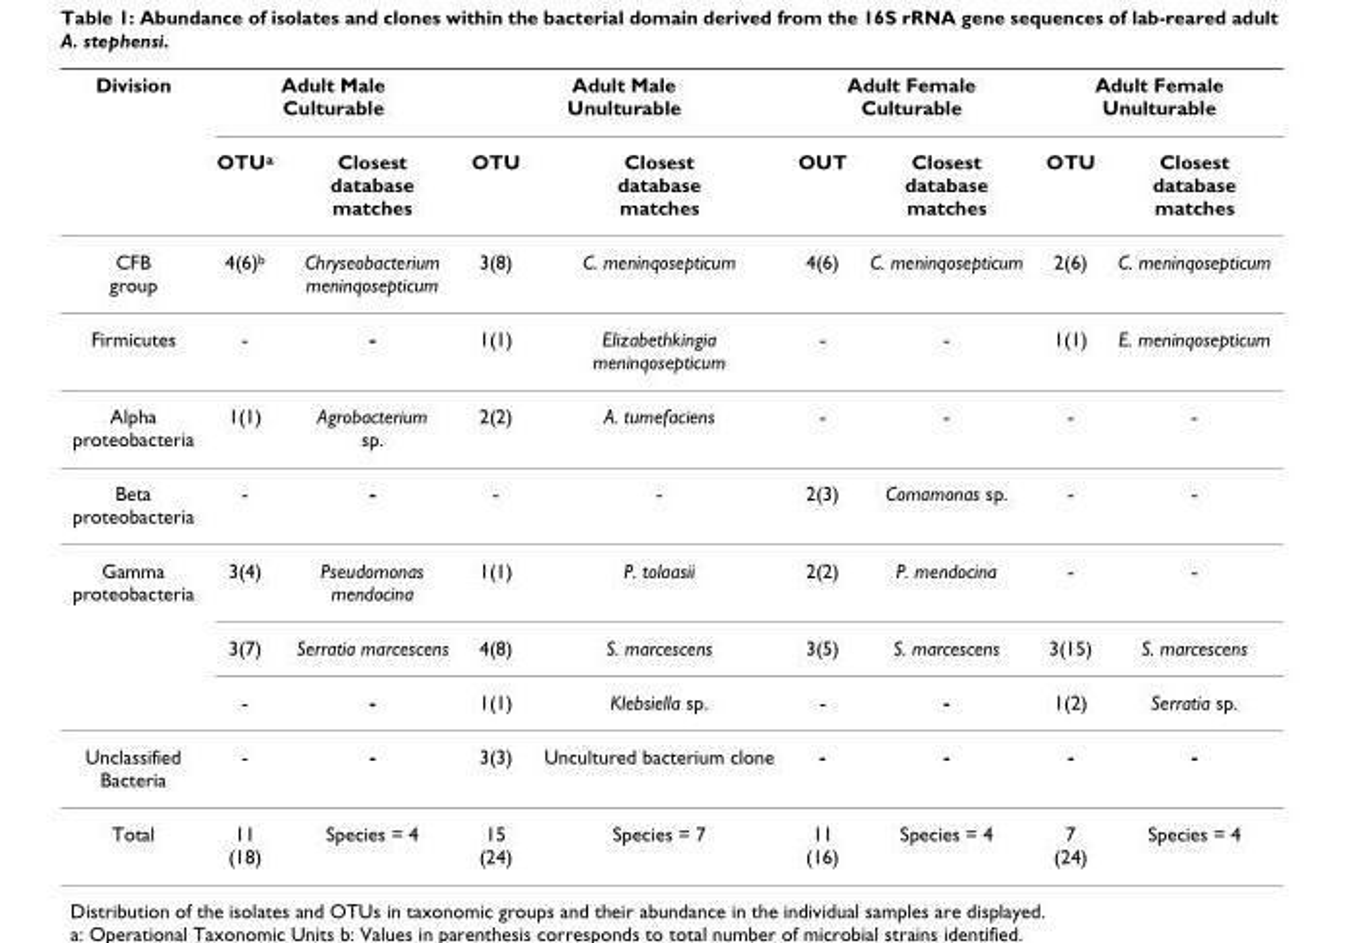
<table><thead><tr><td rowspan="2">Division</td><td colspan="2">Adult Male Culturable</td><td colspan="2">Adult Male Unulturable</td><td colspan="2">Adult Female Culturable</td><td colspan="2">Adult Female Unulturable</td></tr><tr><td>OTUa</td><td>Closest database matches</td><td>OTU</td><td>Closest database matches</td><td>OUT</td><td>Closest database matches</td><td>OTU</td><td>Closest database matches</td></tr></thead><tbody><tr><td>CFB group</td><td>4(6)b</td><td>Chryseobacterium meninqosepticum</td><td>3(8)</td><td>C. meninqosepticum</td><td>4(6)</td><td>C. meninqosepticum</td><td>2(6)</td><td>C. meninqosepticum</td></tr><tr><td>Firmicutes</td><td>-</td><td>-</td><td>1(1)</td><td>Elizabethkingia meninqosepticum</td><td>-</td><td>-</td><td>1(1)</td><td>E. meninqosepticum</td></tr><tr><td>Alpha proteobacteria</td><td>1(1)</td><td>Agrobacterium sp.</td><td>2(2)</td><td>A. tumefaciens</td><td>-</td><td>-</td><td>-</td><td>-</td></tr><tr><td>Beta proteobacteria</td><td>-</td><td>-</td><td>-</td><td>-</td><td>2(3)</td><td>Comamonas sp.</td><td>-</td><td>-</td></tr><tr><td rowspan="3">Gamma proteobacteria</td><td>3(4)</td><td>Pseudomonas mendocina</td><td>1(1)</td><td>P. tolaasii</td><td>2(2)</td><td>P. mendocina</td><td>-</td><td>-</td></tr><tr><td>3(7)</td><td>Serratia marcescens</td><td>4(8)</td><td>S. marcescens</td><td>3(5)</td><td>S. marcescens</td><td>3(15)</td><td>S. marcescens</td></tr><tr><td>-</td><td>-</td><td>1(1)</td><td>Klebsiella sp.</td><td>-</td><td>-</td><td>1(2)</td><td>Serratia sp.</td></tr><tr><td>Unclassified Bacteria</td><td>-</td><td>-</td><td>3(3)</td><td>Uncultured bacterium clone</td><td>-</td><td>-</td><td>-</td><td>-</td></tr><tr><td>Total</td><td>11 (18)</td><td>Species = 4</td><td>15 (24)</td><td>Species = 7</td><td>11 (16)</td><td>Species = 4</td><td>7 (24)</td><td>Species = 4</td></tr></tbody></table>